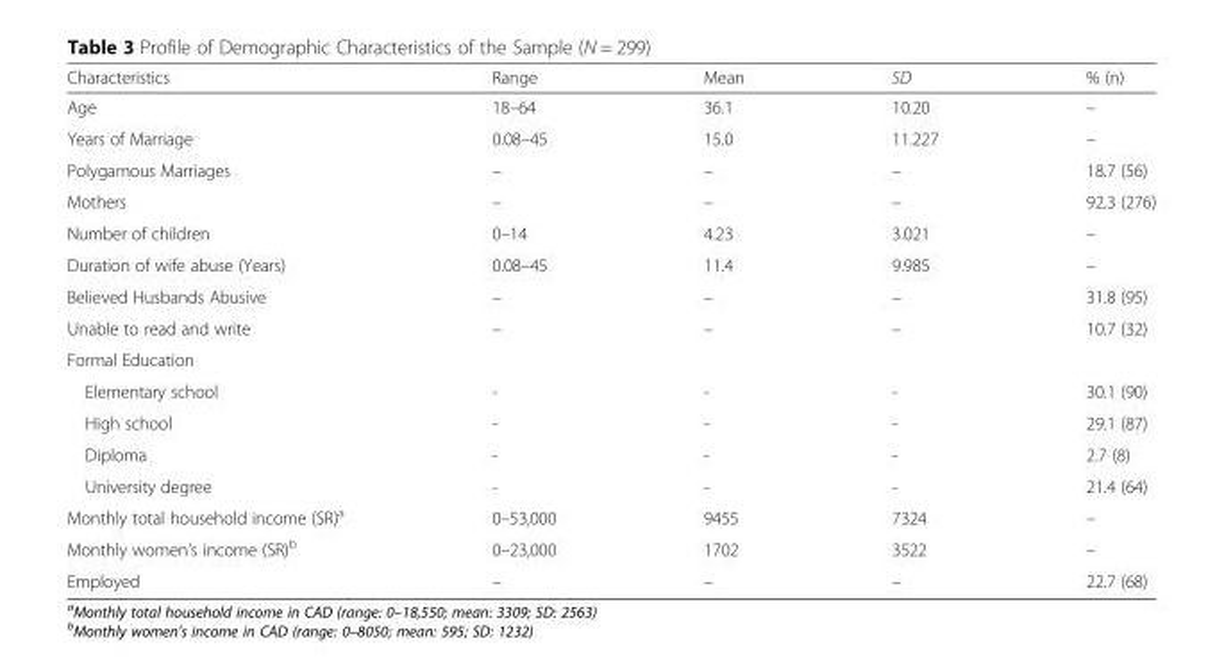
<table><thead><tr><td>Characteristics</td><td>Range</td><td>Mean</td><td>SD</td><td>% (n)</td></tr></thead><tbody><tr><td>Age</td><td>18–64</td><td>36.1</td><td>10.20</td><td>–</td></tr><tr><td>Years of Marriage</td><td>0.08–45</td><td>15.0</td><td>11.227</td><td>–</td></tr><tr><td>Polygamous Marriages</td><td>–</td><td>–</td><td>–</td><td>18.7 (56)</td></tr><tr><td>Mothers</td><td>–</td><td>–</td><td>–</td><td>92.3 (276)</td></tr><tr><td>Number of children</td><td>0–14</td><td>4.23</td><td>3.021</td><td>–</td></tr><tr><td>Duration of wife abuse (Years)</td><td>0.08–45</td><td>11.4</td><td>9.985</td><td>–</td></tr><tr><td>Believed Husbands Abusive</td><td>–</td><td>–</td><td>–</td><td>31.8 (95)</td></tr><tr><td>Unable to read and write</td><td>–</td><td>–</td><td>–</td><td>10.7 (32)</td></tr><tr><td colspan="5">Formal Education</td></tr><tr><td>Elementary school</td><td>-</td><td>-</td><td>-</td><td>30.1 (90)</td></tr><tr><td>High school</td><td>-</td><td>-</td><td>-</td><td>29.1 (87)</td></tr><tr><td>Diploma</td><td>-</td><td>-</td><td>-</td><td>2.7 (8)</td></tr><tr><td>University degree</td><td>-</td><td>-</td><td>-</td><td>21.4 (64)</td></tr><tr><td>Monthly total household income (SR)<sup>a</sup></td><td>0–53,000</td><td>9455</td><td>7324</td><td>–</td></tr><tr><td>Monthly women’s income (SR)<sup>b</sup></td><td>0–23,000</td><td>1702</td><td>3522</td><td>–</td></tr><tr><td>Employed</td><td>–</td><td>–</td><td>–</td><td>22.7 (68)</td></tr></tbody></table>